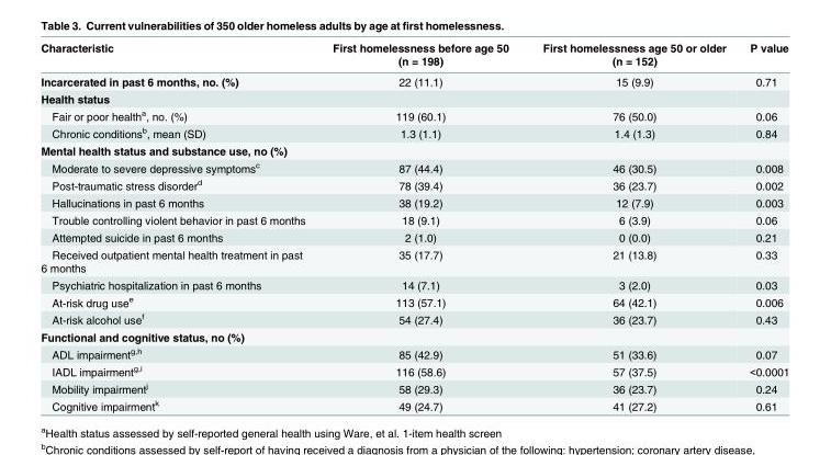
<table><thead><tr><td>Characteristic</td><td>First homelessness before age 50 (n = 198)</td><td>First homelessness age 50 or older (n = 152)</td><td>P value</td></tr></thead><tbody><tr><td>Incarcerated in past 6 months, no. (%)</td><td>22 (11.1)</td><td>15 (9.9)</td><td>0.71</td></tr><tr><td colspan="4">Health status</td></tr><tr><td>Fair or poor health<sup>a</sup>, no. (%)</td><td>119 (60.1)</td><td>76 (50.0)</td><td>0.06</td></tr><tr><td>Chronic conditions<sup>b</sup>, mean (SD)</td><td>1.3 (1.1)</td><td>1.4 (1.3)</td><td>0.84</td></tr><tr><td colspan="4">Mental health status and substance use, no (%)</td></tr><tr><td>Moderate to severe depressive symptoms<sup>c</sup></td><td>87 (44.4)</td><td>46 (30.5)</td><td>0.008</td></tr><tr><td>Post-traumatic stress disorder<sup>d</sup></td><td>78 (39.4)</td><td>36 (23.7)</td><td>0.002</td></tr><tr><td>Hallucinations in past 6 months</td><td>38 (19.2)</td><td>12 (7.9)</td><td>0.003</td></tr><tr><td>Trouble controlling violent behavior in past 6 months</td><td>18 (9.1)</td><td>6 (3.9)</td><td>0.06</td></tr><tr><td>Attempted suicide in past 6 months</td><td>2 (1.0)</td><td>0 (0.0)</td><td>0.21</td></tr><tr><td>Received outpatient mental health treatment in past 6 months</td><td>35 (17.7)</td><td>21 (13.8)</td><td>0.33</td></tr><tr><td>Psychiatric hospitalization in past 6 months</td><td>14 (7.1)</td><td>3 (2.0)</td><td>0.03</td></tr><tr><td>At-risk drug use<sup>e</sup></td><td>113 (57.1)</td><td>64 (42.1)</td><td>0.006</td></tr><tr><td>At-risk alcohol use<sup>f</sup></td><td>54 (27.4)</td><td>36 (23.7)</td><td>0.43</td></tr><tr><td colspan="4">Functional and cognitive status, no (%)</td></tr><tr><td>ADL impairment<sup>g,h</sup></td><td>85 (42.9)</td><td>51 (33.6)</td><td>0.07</td></tr><tr><td>IADL impairment<sup>g,i</sup></td><td>116 (58.6)</td><td>57 (37.5)</td><td>&lt;0.0001</td></tr><tr><td>Mobility impairment<sup>j</sup></td><td>58 (29.3)</td><td>36 (23.7)</td><td>0.24</td></tr><tr><td>Cognitive impairment<sup>k</sup></td><td>49 (24.7)</td><td>41 (27.2)</td><td>0.61</td></tr></tbody></table>